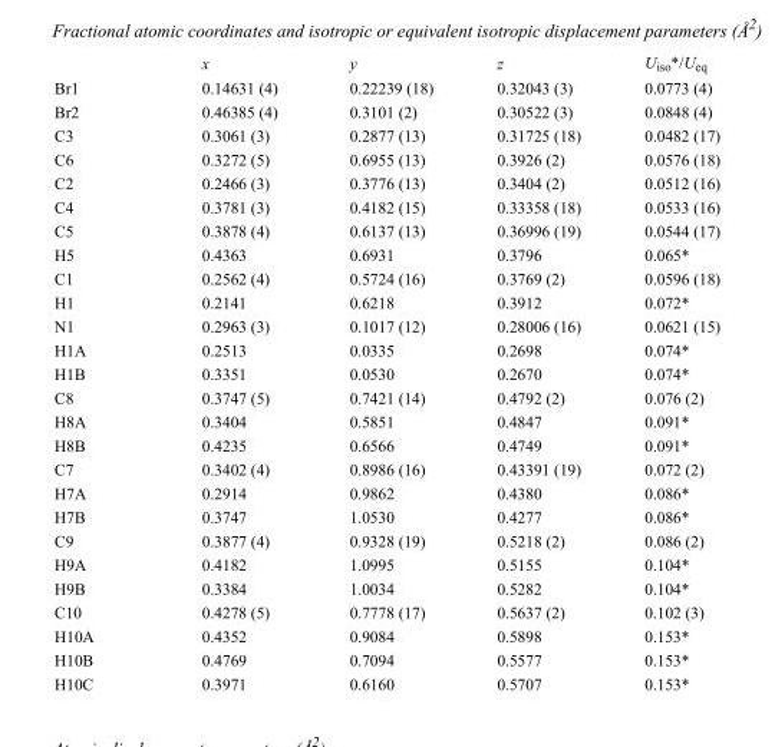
<table><thead><tr><td></td><td>x</td><td>y</td><td>z</td><td>U<sub>iso</sub>*/U<sub>eq</sub></td></tr></thead><tbody><tr><td>Br1</td><td>0.14631 (4)</td><td>0.22239 (18)</td><td>0.32043 (3)</td><td>0.0773 (4)</td></tr><tr><td>Br2</td><td>0.46385 (4)</td><td>0.3101 (2)</td><td>0.30522 (3)</td><td>0.0848 (4)</td></tr><tr><td>C3</td><td>0.3061 (3)</td><td>0.2877 (13)</td><td>0.31725 (18)</td><td>0.0482 (17)</td></tr><tr><td>C6</td><td>0.3272 (5)</td><td>0.6955 (13)</td><td>0.3926 (2)</td><td>0.0576 (18)</td></tr><tr><td>C2</td><td>0.2466 (3)</td><td>0.3776 (13)</td><td>0.3404 (2)</td><td>0.0512 (16)</td></tr><tr><td>C4</td><td>0.3781 (3)</td><td>0.4182 (15)</td><td>0.33358 (18)</td><td>0.0533 (16)</td></tr><tr><td>C5</td><td>0.3878 (4)</td><td>0.6137 (13)</td><td>0.36996 (19)</td><td>0.0544 (17)</td></tr><tr><td>H5</td><td>0.4363</td><td>0.6931</td><td>0.3796</td><td>0.065*</td></tr><tr><td>C1</td><td>0.2562 (4)</td><td>0.5724 (16)</td><td>0.3769 (2)</td><td>0.0596 (18)</td></tr><tr><td>H1</td><td>0.2141</td><td>0.6218</td><td>0.3912</td><td>0.072*</td></tr><tr><td>N1</td><td>0.2963 (3)</td><td>0.1017 (12)</td><td>0.28006 (16)</td><td>0.0621 (15)</td></tr><tr><td>H1A</td><td>0.2513</td><td>0.0335</td><td>0.2698</td><td>0.074*</td></tr><tr><td>H1B</td><td>0.3351</td><td>0.0530</td><td>0.2670</td><td>0.074*</td></tr><tr><td>C8</td><td>0.3747 (5)</td><td>0.7421 (14)</td><td>0.4792 (2)</td><td>0.076 (2)</td></tr><tr><td>H8A</td><td>0.3404</td><td>0.5851</td><td>0.4847</td><td>0.091*</td></tr><tr><td>H8B</td><td>0.4235</td><td>0.6566</td><td>0.4749</td><td>0.091*</td></tr><tr><td>C7</td><td>0.3402 (4)</td><td>0.8986 (16)</td><td>0.43391 (19)</td><td>0.072 (2)</td></tr><tr><td>H7A</td><td>0.2914</td><td>0.9862</td><td>0.4380</td><td>0.086*</td></tr><tr><td>H7B</td><td>0.3747</td><td>1.0530</td><td>0.4277</td><td>0.086*</td></tr><tr><td>C9</td><td>0.3877 (4)</td><td>0.9328 (19)</td><td>0.5218 (2)</td><td>0.086 (2)</td></tr><tr><td>H9A</td><td>0.4182</td><td>1.0995</td><td>0.5155</td><td>0.104*</td></tr><tr><td>H9B</td><td>0.3384</td><td>1.0034</td><td>0.5282</td><td>0.104*</td></tr><tr><td>C10</td><td>0.4278 (5)</td><td>0.7778 (17)</td><td>0.5637 (2)</td><td>0.102 (3)</td></tr><tr><td>H10A</td><td>0.4352</td><td>0.9084</td><td>0.5898</td><td>0.153*</td></tr><tr><td>H10B</td><td>0.4769</td><td>0.7094</td><td>0.5577</td><td>0.153*</td></tr><tr><td>H10C</td><td>0.3971</td><td>0.6160</td><td>0.5707</td><td>0.153*</td></tr></tbody></table>